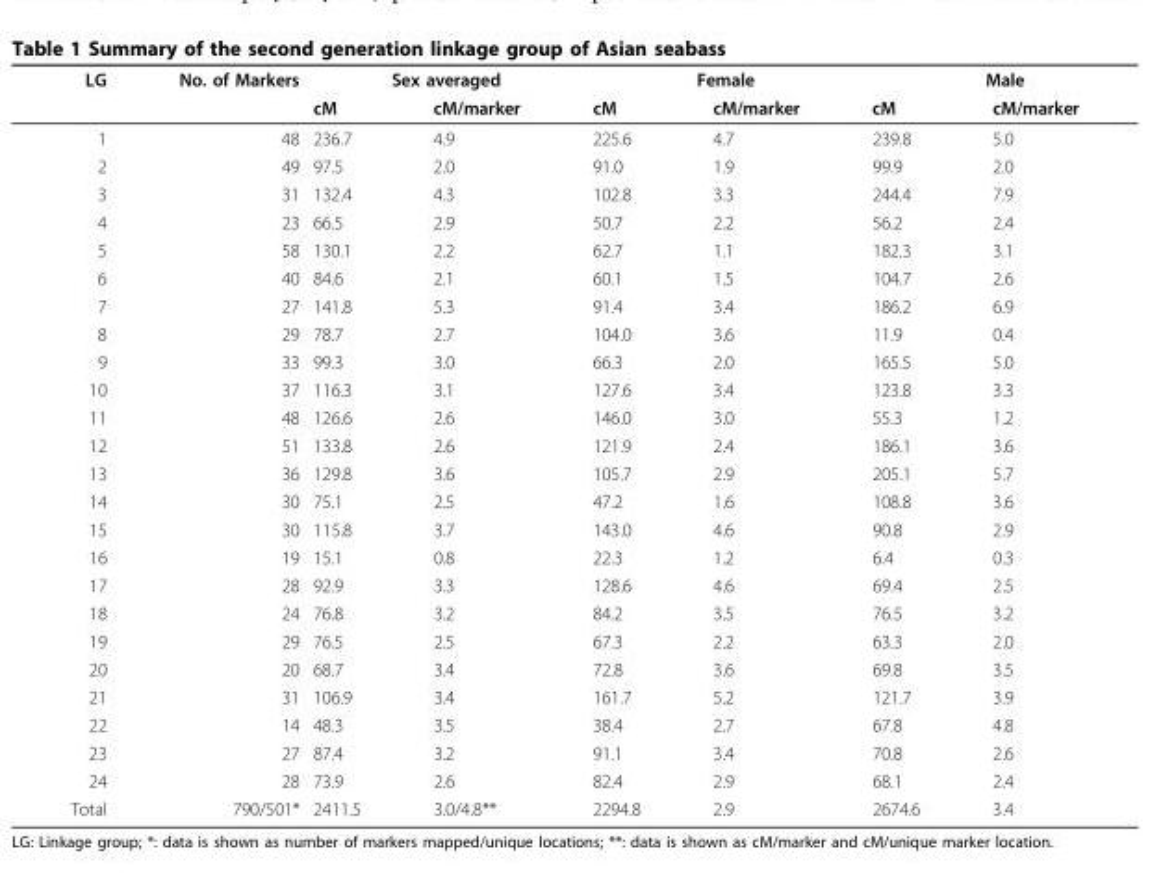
<table><thead><tr><td rowspan="2">LG</td><td rowspan="2">No. of Markers</td><td colspan="2">Sex averaged</td><td colspan="2">Female</td><td colspan="2">Male</td></tr><tr><td>cM</td><td>cM/marker</td><td>cM</td><td>cM/marker</td><td>cM</td><td>cM/marker</td></tr></thead><tbody><tr><td>1</td><td>48</td><td>236.7</td><td>4.9</td><td>225.6</td><td>4.7</td><td>239.8</td><td>5.0</td></tr><tr><td>2</td><td>49</td><td>97.5</td><td>2.0</td><td>91.0</td><td>1.9</td><td>99.9</td><td>2.0</td></tr><tr><td>3</td><td>31</td><td>132.4</td><td>4.3</td><td>102.8</td><td>3.3</td><td>244.4</td><td>7.9</td></tr><tr><td>4</td><td>23</td><td>66.5</td><td>2.9</td><td>50.7</td><td>2.2</td><td>56.2</td><td>2.4</td></tr><tr><td>5</td><td>58</td><td>130.1</td><td>2.2</td><td>62.7</td><td>1.1</td><td>182.3</td><td>3.1</td></tr><tr><td>6</td><td>40</td><td>84.6</td><td>2.1</td><td>60.1</td><td>1.5</td><td>104.7</td><td>2.6</td></tr><tr><td>7</td><td>27</td><td>141.8</td><td>5.3</td><td>91.4</td><td>3.4</td><td>186.2</td><td>6.9</td></tr><tr><td>8</td><td>29</td><td>78.7</td><td>2.7</td><td>104.0</td><td>3.6</td><td>11.9</td><td>0.4</td></tr><tr><td>9</td><td>33</td><td>99.3</td><td>3.0</td><td>66.3</td><td>2.0</td><td>165.5</td><td>5.0</td></tr><tr><td>10</td><td>37</td><td>116.3</td><td>3.1</td><td>127.6</td><td>3.4</td><td>123.8</td><td>3.3</td></tr><tr><td>11</td><td>48</td><td>126.6</td><td>2.6</td><td>146.0</td><td>3.0</td><td>55.3</td><td>1.2</td></tr><tr><td>12</td><td>51</td><td>133.8</td><td>2.6</td><td>121.9</td><td>2.4</td><td>186.1</td><td>3.6</td></tr><tr><td>13</td><td>36</td><td>129.8</td><td>3.6</td><td>105.7</td><td>2.9</td><td>205.1</td><td>5.7</td></tr><tr><td>14</td><td>30</td><td>75.1</td><td>2.5</td><td>47.2</td><td>1.6</td><td>108.8</td><td>3.6</td></tr><tr><td>15</td><td>30</td><td>115.8</td><td>3.7</td><td>143.0</td><td>4.6</td><td>90.8</td><td>2.9</td></tr><tr><td>16</td><td>19</td><td>15.1</td><td>0.8</td><td>22.3</td><td>1.2</td><td>6.4</td><td>0.3</td></tr><tr><td>17</td><td>28</td><td>92.9</td><td>3.3</td><td>128.6</td><td>4.6</td><td>69.4</td><td>2.5</td></tr><tr><td>18</td><td>24</td><td>76.8</td><td>3.2</td><td>84.2</td><td>3.5</td><td>76.5</td><td>3.2</td></tr><tr><td>19</td><td>29</td><td>76.5</td><td>2.5</td><td>67.3</td><td>2.2</td><td>63.3</td><td>2.0</td></tr><tr><td>20</td><td>20</td><td>68.7</td><td>3.4</td><td>72.8</td><td>3.6</td><td>69.8</td><td>3.5</td></tr><tr><td>21</td><td>31</td><td>106.9</td><td>3.4</td><td>161.7</td><td>5.2</td><td>121.7</td><td>3.9</td></tr><tr><td>22</td><td>14</td><td>48.3</td><td>3.5</td><td>38.4</td><td>2.7</td><td>67.8</td><td>4.8</td></tr><tr><td>23</td><td>27</td><td>87.4</td><td>3.2</td><td>91.1</td><td>3.4</td><td>70.8</td><td>2.6</td></tr><tr><td>24</td><td>28</td><td>73.9</td><td>2.6</td><td>82.4</td><td>2.9</td><td>68.1</td><td>2.4</td></tr><tr><td>Total</td><td>790/501*</td><td>2411.5</td><td>3.0/4.8**</td><td>2294.8</td><td>2.9</td><td>2674.6</td><td>3.4</td></tr></tbody></table>